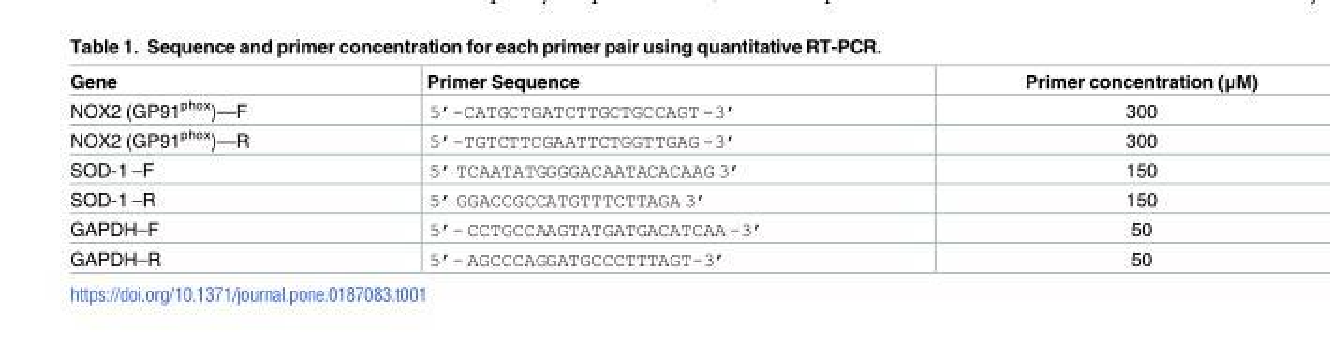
<table><thead><tr><td>Gene</td><td>Primer Sequence</td><td>Primer concentration (μM)</td></tr></thead><tbody><tr><td>NOX2 (GP91<sup>phox</sup>)—F</td><td>5’-CATGCTGATCTTGCTGCCAGT -3’</td><td>300</td></tr><tr><td>NOX2 (GP91<sup>phox</sup>)—R</td><td>5’-TGTCTTCGAATTCTGGTTGAG -3’</td><td>300</td></tr><tr><td>SOD-1 –F</td><td>5’ TCAATATGGGGACAATACACAAG 3’</td><td>150</td></tr><tr><td>SOD-1 –R</td><td>5’ GGACCGCCATGTTTCTTAGA 3’</td><td>150</td></tr><tr><td>GAPDH–F</td><td>5’- CCTGCCAAGTATGATGACATCAA -3’</td><td>50</td></tr><tr><td>GAPDH–R</td><td>5’- AGCCCAGGATGCCCTTTAGT-3’</td><td>50</td></tr></tbody></table>